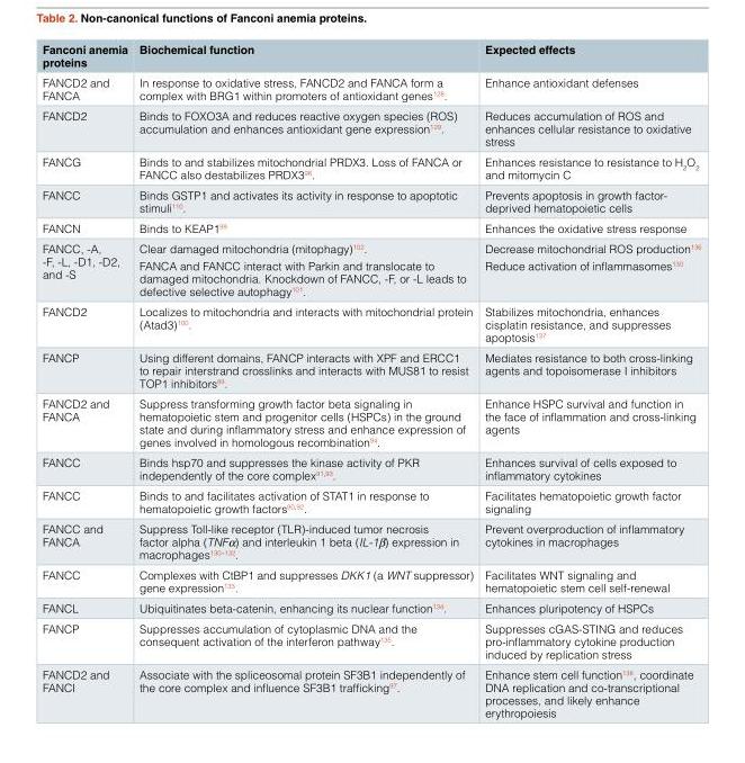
<table><thead><tr><td>Fanconi anemia proteins</td><td>Biochemical function</td><td>Expected effects</td></tr></thead><tbody><tr><td>FANCD2 and FANCA</td><td>In response to oxidative stress, FANCD2 and FANCA form a complex with BRG1 within promoters of antioxidant genes<sup>128</sup>.</td><td>Enhance antioxidant defenses</td></tr><tr><td>FANCD2</td><td>Binds to FOXO3A and reduces reactive oxygen species (ROS) accumulation and enhances antioxidant gene expression<sup>129</sup>.</td><td>Reduces accumulation of ROS and enhances cellular resistance to oxidative stress</td></tr><tr><td>FANCG</td><td>Binds to and stabilizes mitochondrial PRDX3. Loss of FANCA or FANCC also destabilizes PRDX3<sup>98</sup>.</td><td>Enhances resistance to resistance to H<sub>2</sub>O<sub>2</sub> and mitomycin C</td></tr><tr><td>FANCC</td><td>Binds GSTP1 and activates its activity in response to apoptotic stimuli<sup>110</sup>.</td><td>Prevents apoptosis in growth factor- deprived hematopoietic cells</td></tr><tr><td>FANCN</td><td>Binds to KEAP1<sup>99</sup></td><td>Enhances the oxidative stress response</td></tr><tr><td>FANCC, -A, -F, -L, -D1, -D2, and -S</td><td>Clear damaged mitochondria (mitophagy)<sup>102</sup>. FANCA and FANCC interact with Parkin and translocate to damaged mitochondria. Knockdown of FANCC, -F, or -L leads to defective selective autophagy<sup>101</sup>.</td><td>Decrease mitochondrial ROS production<sup>136</sup> Reduce activation of inflammasomes<sup>130</sup></td></tr><tr><td>FANCD2</td><td>Localizes to mitochondria and interacts with mitochondrial protein (Atad3)<sup>100</sup>.</td><td>Stabilizes mitochondria, enhances cisplatin resistance, and suppresses apoptosis<sup>137</sup></td></tr><tr><td>FANCP</td><td>Using different domains, FANCP interacts with XPF and ERCC1 to repair interstrand crosslinks and interacts with MUS81 to resist TOP1 inhibitors<sup>89</sup>.</td><td>Mediates resistance to both cross-linking agents and topoisomerase I inhibitors</td></tr><tr><td>FANCD2 and FANCA</td><td>Suppress transforming growth factor beta signaling in hematopoietic stem and progenitor cells (HSPCs) in the ground state and during inflammatory stress and enhance expression of genes involved in homologous recombination<sup>94</sup>.</td><td>Enhance HSPC survival and function in the face of inflammation and cross-linking agents</td></tr><tr><td>FANCC</td><td>Binds hsp70 and suppresses the kinase activity of PKR independently of the core complex<sup>91,93</sup>.</td><td>Enhances survival of cells exposed to inflammatory cytokines</td></tr><tr><td>FANCC</td><td>Binds to and facilitates activation of STAT1 in response to hematopoietic growth factors<sup>90,92</sup>.</td><td>Facilitates hematopoietic growth factor signaling</td></tr><tr><td>FANCC and FANCA</td><td>Suppress Toll-like receptor (TLR)-induced tumor necrosis factor alpha (TNFα) and interleukin 1 beta (IL-1β) expression in macrophages130–132.</td><td>Prevent overproduction of inflammatory cytokines in macrophages</td></tr><tr><td>FANCC</td><td>Complexes with CtBP1 and suppresses DKK1 (a WNT suppressor) gene expression<sup>133</sup>.</td><td>Facilitates WNT signaling and hematopoietic stem cell self-renewal</td></tr><tr><td>FANCL</td><td>Ubiquitinates beta-catenin, enhancing its nuclear function<sup>134</sup>.</td><td>Enhances pluripotency of HSPCs</td></tr><tr><td>FANCP</td><td>Suppresses accumulation of cytoplasmic DNA and the consequent activation of the interferon pathway<sup>135</sup>.</td><td>Suppresses cGAS-STING and reduces pro-inflammatory cytokine production induced by replication stress</td></tr><tr><td>FANCD2 and FANCI</td><td>Associate with the spliceosomal protein SF3B1 independently of the core complex and influence SF3B1 trafficking<sup>97</sup>.</td><td>Enhance stem cell function<sup>138</sup>, coordinate DNA replication and co-transcriptional processes, and likely enhance erythropoiesis</td></tr></tbody></table>